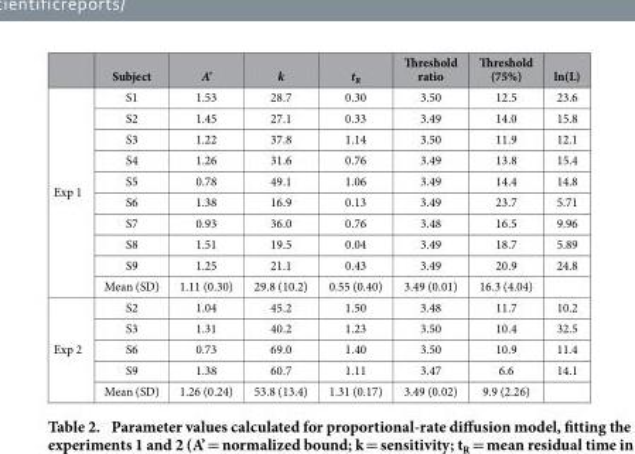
<table><thead><tr><td></td><td>Subject</td><td>A’</td><td>k</td><td>t<sub>R</sub></td><td>Threshold ratio</td><td>Threshold (75%)</td><td>ln(L)</td></tr></thead><tbody><tr><td rowspan="10">Exp 1</td><td>S1</td><td>1.53</td><td>28.7</td><td>0.30</td><td>3.50</td><td>12.5</td><td>23.6</td></tr><tr><td>S2</td><td>1.45</td><td>27.1</td><td>0.33</td><td>3.49</td><td>14.0</td><td>15.8</td></tr><tr><td>S3</td><td>1.22</td><td>37.8</td><td>1.14</td><td>3.50</td><td>11.9</td><td>12.1</td></tr><tr><td>S4</td><td>1.26</td><td>31.6</td><td>0.76</td><td>3.49</td><td>13.8</td><td>15.4</td></tr><tr><td>S5</td><td>0.78</td><td>49.1</td><td>1.06</td><td>3.49</td><td>14.4</td><td>14.8</td></tr><tr><td>S6</td><td>1.38</td><td>16.9</td><td>0.13</td><td>3.49</td><td>23.7</td><td>5.71</td></tr><tr><td>S7</td><td>0.93</td><td>36.0</td><td>0.76</td><td>3.48</td><td>16.5</td><td>9.96</td></tr><tr><td>S8</td><td>1.51</td><td>19.5</td><td>0.04</td><td>3.49</td><td>18.7</td><td>5.89</td></tr><tr><td>S9</td><td>1.25</td><td>21.1</td><td>0.43</td><td>3.49</td><td>20.9</td><td>24.8</td></tr><tr><td>Mean (SD)</td><td>1.11 (0.30)</td><td>29.8 (10.2)</td><td>0.55 (0.40)</td><td>3.49 (0.01)</td><td>16.3 (4.04)</td><td></td></tr><tr><td rowspan="5">Exp 2</td><td>S2</td><td>1.04</td><td>45.2</td><td>1.50</td><td>3.48</td><td>11.7</td><td>10.2</td></tr><tr><td>S3</td><td>1.31</td><td>40.2</td><td>1.23</td><td>3.50</td><td>10.4</td><td>32.5</td></tr><tr><td>S6</td><td>0.73</td><td>69.0</td><td>1.40</td><td>3.50</td><td>10.9</td><td>11.4</td></tr><tr><td>S9</td><td>1.38</td><td>60.7</td><td>1.11</td><td>3.47</td><td>6.6</td><td>14.1</td></tr><tr><td>Mean (SD)</td><td>1.26 (0.24)</td><td>53.8 (13.4)</td><td>1.31 (0.17)</td><td>3.49 (0.02)</td><td>9.9 (2.26)</td><td></td></tr></tbody></table>